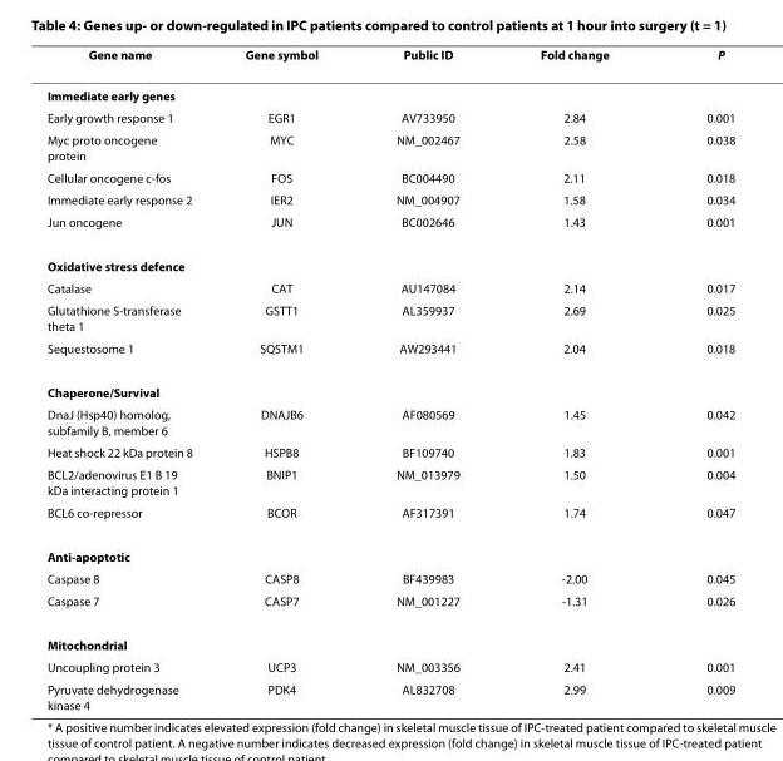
<table><thead><tr><td>Gene name</td><td>Gene symbol</td><td>Public ID</td><td>Fold change</td><td>P</td></tr></thead><tbody><tr><td colspan="5">Immediate early genes</td></tr><tr><td>Early growth response 1</td><td>EGR1</td><td>AV733950</td><td>2.84</td><td>0.001</td></tr><tr><td>Myc proto oncogene protein</td><td>MYC</td><td>NM_002467</td><td>2.58</td><td>0.038</td></tr><tr><td>Cellular oncogene c-fos</td><td>FOS</td><td>BC004490</td><td>2.11</td><td>0.018</td></tr><tr><td>Immediate early response 2</td><td>IER2</td><td>NM_004907</td><td>1.58</td><td>0.034</td></tr><tr><td>Jun oncogene</td><td>JUN</td><td>BC002646</td><td>1.43</td><td>0.001</td></tr><tr><td colspan="5">Oxidative stress defence</td></tr><tr><td>Catalase</td><td>CAT</td><td>AU147084</td><td>2.14</td><td>0.017</td></tr><tr><td>Glutathione S-transferase theta 1</td><td>GSTT1</td><td>AL359937</td><td>2.69</td><td>0.025</td></tr><tr><td>Sequestosome 1</td><td>SQSTM1</td><td>AW293441</td><td>2.04</td><td>0.018</td></tr><tr><td colspan="5">Chaperone/Survival</td></tr><tr><td>DnaJ (Hsp40) homolog, subfamily B, member 6</td><td>DNAJB6</td><td>AF080569</td><td>1.45</td><td>0.042</td></tr><tr><td>Heat shock 22 kDa protein 8</td><td>HSPB8</td><td>BF109740</td><td>1.83</td><td>0.001</td></tr><tr><td>BCL2/adenovirus E1 B 19 kDa interacting protein 1</td><td>BNIP1</td><td>NM_013979</td><td>1.50</td><td>0.004</td></tr><tr><td>BCL6 co-repressor</td><td>BCOR</td><td>AF317391</td><td>1.74</td><td>0.047</td></tr><tr><td colspan="5">Anti-apoptotic</td></tr><tr><td>Caspase 8</td><td>CASP8</td><td>BF439983</td><td>-2.00</td><td>0.045</td></tr><tr><td>Caspase 7</td><td>CASP7</td><td>NM_001227</td><td>-1.31</td><td>0.026</td></tr><tr><td colspan="5">Mitochondrial</td></tr><tr><td>Uncoupling protein 3</td><td>UCP3</td><td>NM_003356</td><td>2.41</td><td>0.001</td></tr><tr><td>Pyruvate dehydrogenase kinase 4</td><td>PDK4</td><td>AL832708</td><td>2.99</td><td>0.009</td></tr></tbody></table>